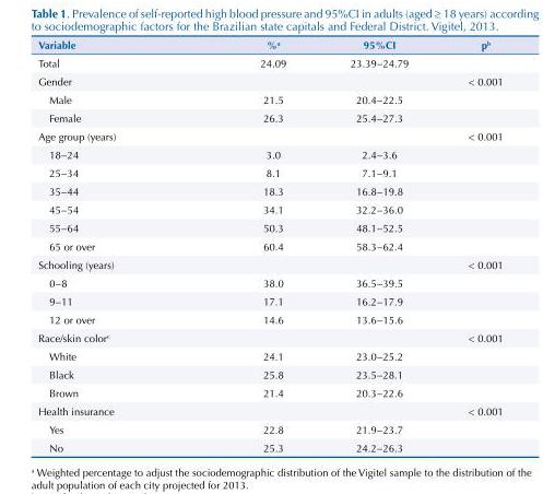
<table><thead><tr><td>Variable</td><td>%<sup>a</sup></td><td>95%CI</td><td>p<sup>b</sup></td></tr></thead><tbody><tr><td>Total</td><td>24.09</td><td>23.39 −24.79</td><td></td></tr><tr><td>Gender</td><td></td><td></td><td>&lt; 0.001</td></tr><tr><td>Male</td><td>21.5</td><td>20.4−22.5</td><td></td></tr><tr><td>Female</td><td>26.3</td><td>25.4−27.3</td><td></td></tr><tr><td>Age group (years)</td><td></td><td></td><td>&lt; 0.001</td></tr><tr><td>18−24</td><td>3.0</td><td>2.4−3.6</td><td></td></tr><tr><td>25−34</td><td>8.1</td><td>7.1−9.1</td><td></td></tr><tr><td>35−44</td><td>18.3</td><td>16.8−19.8</td><td></td></tr><tr><td>45−54</td><td>34.1</td><td>32.2−36.0</td><td></td></tr><tr><td>55−64</td><td>50.3</td><td>48.1−52.5</td><td></td></tr><tr><td>65 or over</td><td>60.4</td><td>58.3−62.4</td><td></td></tr><tr><td>Schooling (years)</td><td></td><td></td><td>&lt; 0.001</td></tr><tr><td>0−8</td><td>38.0</td><td>36.5−39.5</td><td></td></tr><tr><td>9−11</td><td>17.1</td><td>16.2−17.9</td><td></td></tr><tr><td>12 or over</td><td>14.6</td><td>13.6−15.6</td><td></td></tr><tr><td>Race/skin color<sup>c</sup></td><td></td><td></td><td>&lt; 0.001</td></tr><tr><td>White</td><td>24.1</td><td>23.0−25.2</td><td></td></tr><tr><td>Black</td><td>25.8</td><td>23.5−28.1</td><td></td></tr><tr><td>Brown</td><td>21.4</td><td>20.3−22.6</td><td></td></tr><tr><td>Health insurance</td><td></td><td></td><td>&lt; 0.001</td></tr><tr><td>Yes</td><td>22.8</td><td>21.9−23.7</td><td></td></tr><tr><td>No</td><td>25.3</td><td>24.2−26.3</td><td></td></tr></tbody></table>